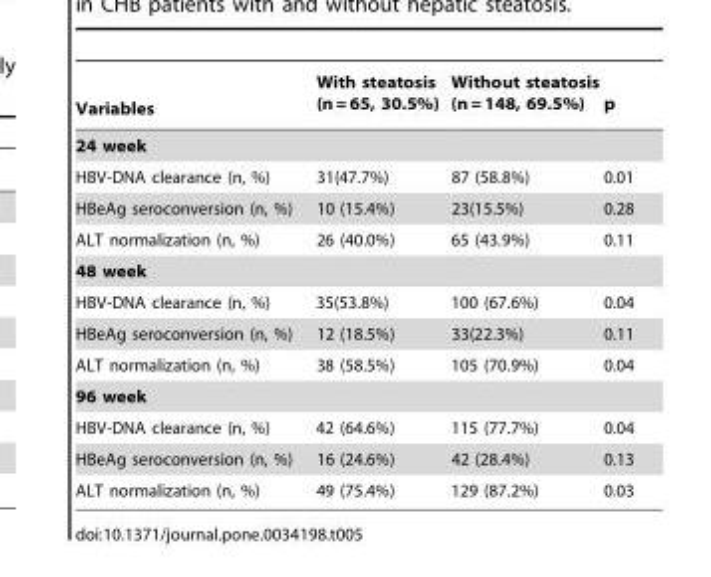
<table><thead><tr><td>Variables</td><td>With steatosis (n = 65, 30.5%)</td><td>Without steatosis (n = 148, 69.5%)</td><td>p</td></tr></thead><tbody><tr><td colspan="4">24 week</td></tr><tr><td>HBV-DNA clearance (n, %)</td><td>31(47.7%)</td><td>87 (58.8%)</td><td>0.01</td></tr><tr><td>HBeAg seroconversion (n, %)</td><td>10 (15.4%)</td><td>23(15.5%)</td><td>0.28</td></tr><tr><td>ALT normalization (n, %)</td><td>26 (40.0%)</td><td>65 (43.9%)</td><td>0.11</td></tr><tr><td colspan="4">48 week</td></tr><tr><td>HBV-DNA clearance (n, %)</td><td>35(53.8%)</td><td>100 (67.6%)</td><td>0.04</td></tr><tr><td>HBeAg seroconversion (n, %)</td><td>12 (18.5%)</td><td>33(22.3%)</td><td>0.11</td></tr><tr><td>ALT normalization (n, %)</td><td>38 (58.5%)</td><td>105 (70.9%)</td><td>0.04</td></tr><tr><td colspan="4">96 week</td></tr><tr><td>HBV-DNA clearance (n, %)</td><td>42 (64.6%)</td><td>115 (77.7%)</td><td>0.04</td></tr><tr><td>HBeAg seroconversion (n, %)</td><td>16 (24.6%)</td><td>42 (28.4%)</td><td>0.13</td></tr><tr><td>ALT normalization (n, %)</td><td>49 (75.4%)</td><td>129 (87.2%)</td><td>0.03</td></tr></tbody></table>